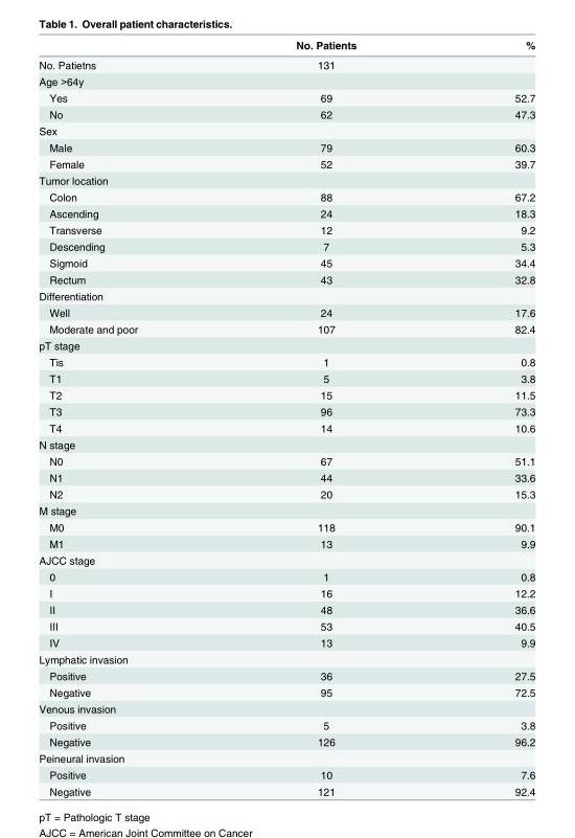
<table><thead><tr><td></td><td>No. Patients</td><td>%</td></tr></thead><tbody><tr><td>No. Patietns</td><td>131</td><td></td></tr><tr><td colspan="3">Age &gt;64y</td></tr><tr><td>Yes</td><td>69</td><td>52.7</td></tr><tr><td>No</td><td>62</td><td>47.3</td></tr><tr><td colspan="3">Sex</td></tr><tr><td>Male</td><td>79</td><td>60.3</td></tr><tr><td>Female</td><td>52</td><td>39.7</td></tr><tr><td colspan="3">Tumor location</td></tr><tr><td>Colon</td><td>88</td><td>67.2</td></tr><tr><td>Ascending</td><td>24</td><td>18.3</td></tr><tr><td>Transverse</td><td>12</td><td>9.2</td></tr><tr><td>Descending</td><td>7</td><td>5.3</td></tr><tr><td>Sigmoid</td><td>45</td><td>34.4</td></tr><tr><td>Rectum</td><td>43</td><td>32.8</td></tr><tr><td colspan="3">Differentiation</td></tr><tr><td>Well</td><td>24</td><td>17.6</td></tr><tr><td>Moderate and poor</td><td>107</td><td>82.4</td></tr><tr><td colspan="3">pT stage</td></tr><tr><td>Tis</td><td>1</td><td>0.8</td></tr><tr><td>T1</td><td>5</td><td>3.8</td></tr><tr><td>T2</td><td>15</td><td>11.5</td></tr><tr><td>T3</td><td>96</td><td>73.3</td></tr><tr><td>T4</td><td>14</td><td>10.6</td></tr><tr><td colspan="3">N stage</td></tr><tr><td>N0</td><td>67</td><td>51.1</td></tr><tr><td>N1</td><td>44</td><td>33.6</td></tr><tr><td>N2</td><td>20</td><td>15.3</td></tr><tr><td colspan="3">M stage</td></tr><tr><td>M0</td><td>118</td><td>90.1</td></tr><tr><td>M1</td><td>13</td><td>9.9</td></tr><tr><td colspan="3">AJCC stage</td></tr><tr><td>0</td><td>1</td><td>0.8</td></tr><tr><td>I</td><td>16</td><td>12.2</td></tr><tr><td>II</td><td>48</td><td>36.6</td></tr><tr><td>III</td><td>53</td><td>40.5</td></tr><tr><td>IV</td><td>13</td><td>9.9</td></tr><tr><td colspan="3">Lymphatic invasion</td></tr><tr><td>Positive</td><td>36</td><td>27.5</td></tr><tr><td>Negative</td><td>95</td><td>72.5</td></tr><tr><td colspan="3">Venous invasion</td></tr><tr><td>Positive</td><td>5</td><td>3.8</td></tr><tr><td>Negative</td><td>126</td><td>96.2</td></tr><tr><td colspan="3">Peineural invasion</td></tr><tr><td>Positive</td><td>10</td><td>7.6</td></tr><tr><td>Negative</td><td>121</td><td>92.4</td></tr></tbody></table>